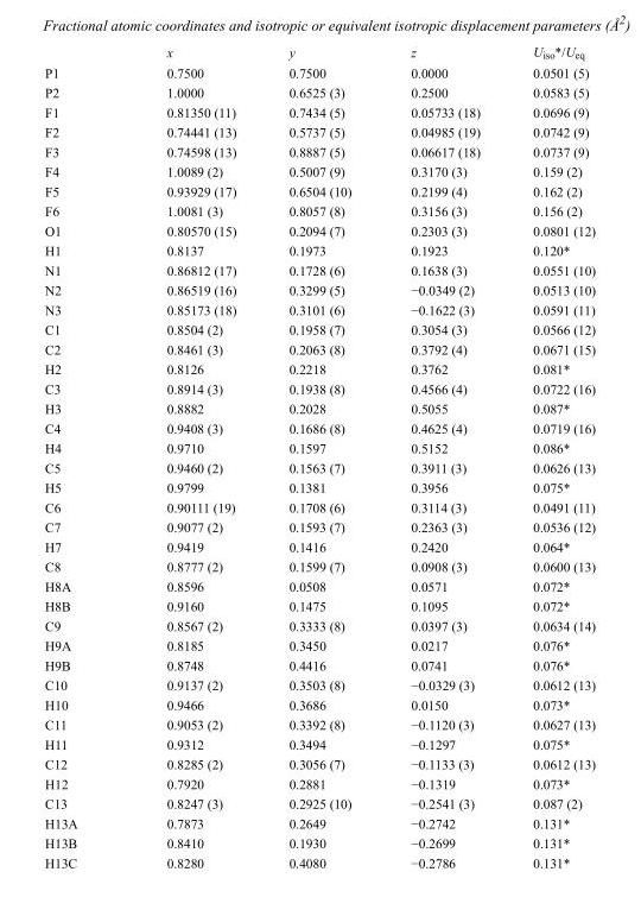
<table><thead><tr><td></td><td>x</td><td>y</td><td>z</td><td>U<sub>iso</sub>*/U<sub>eq</sub></td></tr></thead><tbody><tr><td>P1</td><td>0.7500</td><td>0.7500</td><td>0.0000</td><td>0.0501 (5)</td></tr><tr><td>P2</td><td>1.0000</td><td>0.6525 (3)</td><td>0.2500</td><td>0.0583 (5)</td></tr><tr><td>F1</td><td>0.81350 (11)</td><td>0.7434 (5)</td><td>0.05733 (18)</td><td>0.0696 (9)</td></tr><tr><td>F2</td><td>0.74441 (13)</td><td>0.5737 (5)</td><td>0.04985 (19)</td><td>0.0742 (9)</td></tr><tr><td>F3</td><td>0.74598 (13)</td><td>0.8887 (5)</td><td>0.06617 (18)</td><td>0.0737 (9)</td></tr><tr><td>F4</td><td>1.0089 (2)</td><td>0.5007 (9)</td><td>0.3170 (3)</td><td>0.159 (2)</td></tr><tr><td>F5</td><td>0.93929 (17)</td><td>0.6504 (10)</td><td>0.2199 (4)</td><td>0.162 (2)</td></tr><tr><td>F6</td><td>1.0081 (3)</td><td>0.8057 (8)</td><td>0.3156 (3)</td><td>0.156 (2)</td></tr><tr><td>O1</td><td>0.80570 (15)</td><td>0.2094 (7)</td><td>0.2303 (3)</td><td>0.0801 (12)</td></tr><tr><td>H1</td><td>0.8137</td><td>0.1973</td><td>0.1923</td><td>0.120*</td></tr><tr><td>N1</td><td>0.86812 (17)</td><td>0.1728 (6)</td><td>0.1638 (3)</td><td>0.0551 (10)</td></tr><tr><td>N2</td><td>0.86519 (16)</td><td>0.3299 (5)</td><td>−0.0349 (2)</td><td>0.0513 (10)</td></tr><tr><td>N3</td><td>0.85173 (18)</td><td>0.3101 (6)</td><td>−0.1622 (3)</td><td>0.0591 (11)</td></tr><tr><td>C1</td><td>0.8504 (2)</td><td>0.1958 (7)</td><td>0.3054 (3)</td><td>0.0566 (12)</td></tr><tr><td>C2</td><td>0.8461 (3)</td><td>0.2063 (8)</td><td>0.3792 (4)</td><td>0.0671 (15)</td></tr><tr><td>H2</td><td>0.8126</td><td>0.2218</td><td>0.3762</td><td>0.081*</td></tr><tr><td>C3</td><td>0.8914 (3)</td><td>0.1938 (8)</td><td>0.4566 (4)</td><td>0.0722 (16)</td></tr><tr><td>H3</td><td>0.8882</td><td>0.2028</td><td>0.5055</td><td>0.087*</td></tr><tr><td>C4</td><td>0.9408 (3)</td><td>0.1686 (8)</td><td>0.4625 (4)</td><td>0.0719 (16)</td></tr><tr><td>H4</td><td>0.9710</td><td>0.1597</td><td>0.5152</td><td>0.086*</td></tr><tr><td>C5</td><td>0.9460 (2)</td><td>0.1563 (7)</td><td>0.3911 (3)</td><td>0.0626 (13)</td></tr><tr><td>H5</td><td>0.9799</td><td>0.1381</td><td>0.3956</td><td>0.075*</td></tr><tr><td>C6</td><td>0.90111 (19)</td><td>0.1708 (6)</td><td>0.3114 (3)</td><td>0.0491 (11)</td></tr><tr><td>C7</td><td>0.9077 (2)</td><td>0.1593 (7)</td><td>0.2363 (3)</td><td>0.0536 (12)</td></tr><tr><td>H7</td><td>0.9419</td><td>0.1416</td><td>0.2420</td><td>0.064*</td></tr><tr><td>C8</td><td>0.8777 (2)</td><td>0.1599 (7)</td><td>0.0908 (3)</td><td>0.0600 (13)</td></tr><tr><td>H8A</td><td>0.8596</td><td>0.0508</td><td>0.0571</td><td>0.072*</td></tr><tr><td>H8B</td><td>0.9160</td><td>0.1475</td><td>0.1095</td><td>0.072*</td></tr><tr><td>C9</td><td>0.8567 (2)</td><td>0.3333 (8)</td><td>0.0397 (3)</td><td>0.0634 (14)</td></tr><tr><td>H9A</td><td>0.8185</td><td>0.3450</td><td>0.0217</td><td>0.076*</td></tr><tr><td>H9B</td><td>0.8748</td><td>0.4416</td><td>0.0741</td><td>0.076*</td></tr><tr><td>C10</td><td>0.9137 (2)</td><td>0.3503 (8)</td><td>−0.0329 (3)</td><td>0.0612 (13)</td></tr><tr><td>H10</td><td>0.9466</td><td>0.3686</td><td>0.0150</td><td>0.073*</td></tr><tr><td>C11</td><td>0.9053 (2)</td><td>0.3392 (8)</td><td>−0.1120 (3)</td><td>0.0627 (13)</td></tr><tr><td>H11</td><td>0.9312</td><td>0.3494</td><td>−0.1297</td><td>0.075*</td></tr><tr><td>C12</td><td>0.8285 (2)</td><td>0.3056 (7)</td><td>−0.1133 (3)</td><td>0.0612 (13)</td></tr><tr><td>H12</td><td>0.7920</td><td>0.2881</td><td>−0.1319</td><td>0.073*</td></tr><tr><td>C13</td><td>0.8247 (3)</td><td>0.2925 (10)</td><td>−0.2541 (3)</td><td>0.087 (2)</td></tr><tr><td>H13A</td><td>0.7873</td><td>0.2649</td><td>−0.2742</td><td>0.131*</td></tr><tr><td>H13B</td><td>0.8410</td><td>0.1930</td><td>−0.2699</td><td>0.131*</td></tr><tr><td>H13C</td><td>0.8280</td><td>0.4080</td><td>−0.2786</td><td>0.131*</td></tr></tbody></table>